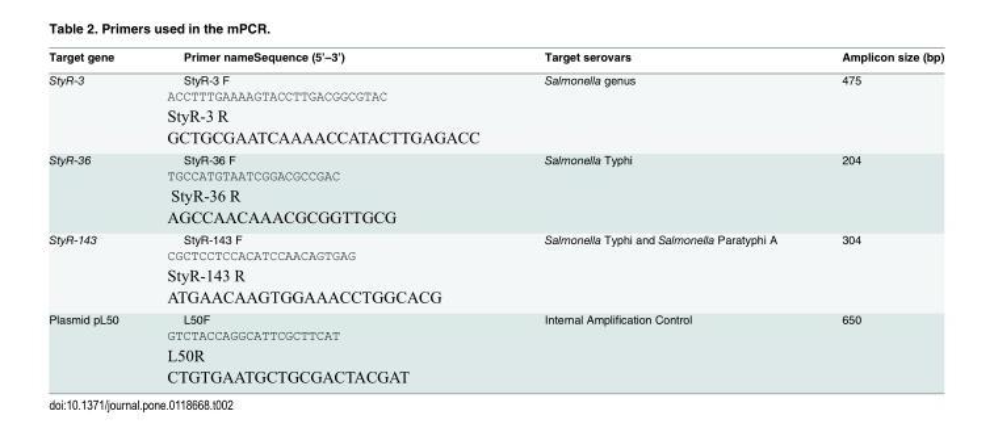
<table><thead><tr><td>Target gene</td><td>Primer nameSequence (5’–3’)</td><td>Target serovars</td><td>Amplicon size (bp)</td></tr></thead><tbody><tr><td>StyR-3</td><td>StyR-3 F ACCTTTGAAAAGTACCTTGACGGCGTAC StyR-3 R GCTGCGAATCAAAACCATACTTGAGACC</td><td>Salmonella genus</td><td>475</td></tr><tr><td>StyR-36</td><td>StyR-36 F TGCCATGTAATCGGACGCCGAC StyR-36 R AGCCAACAAACGCGGTTGCG</td><td>Salmonella Typhi</td><td>204</td></tr><tr><td>StyR-143</td><td>StyR-143 F CGCTCCTCCACATCCAACAGTGAG StyR-143 R ATGAACAAGTGGAAACCTGGCACG</td><td>Salmonella Typhi and Salmonella Paratyphi A</td><td>304</td></tr><tr><td>Plasmid pL50</td><td>L50F GTCTACCAGGCATTCGCTTCAT L50R CTGTGAATGCTGCGACTACGAT</td><td>Internal Amplification Control</td><td>650</td></tr></tbody></table>